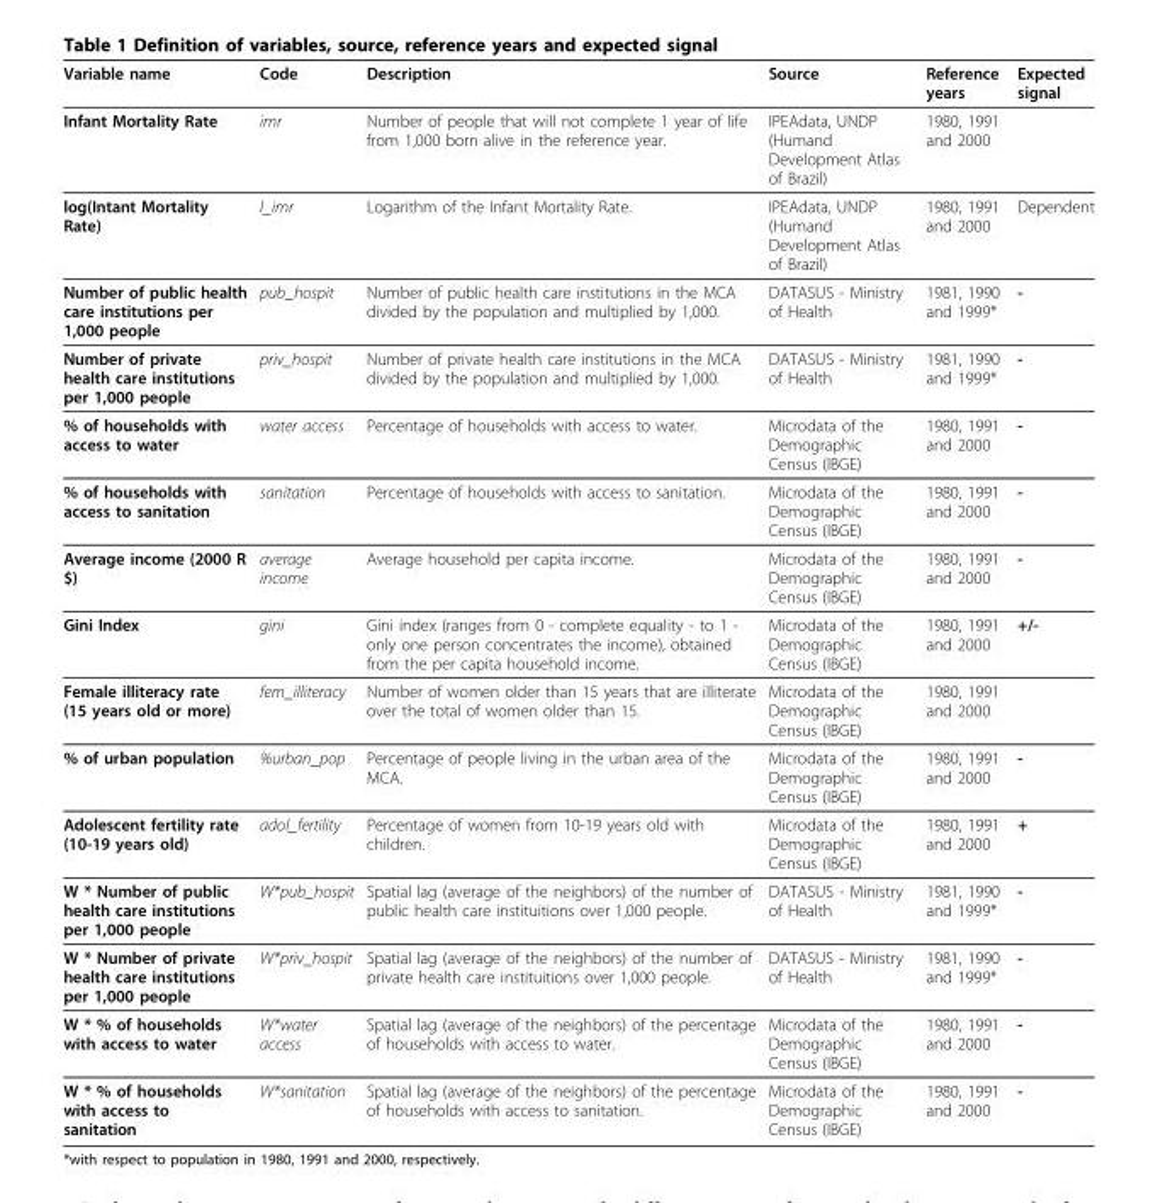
<table><thead><tr><td>Variable name</td><td>Code</td><td>Description</td><td>Source</td><td>Reference years</td><td>Expected signal</td></tr></thead><tbody><tr><td>Infant Mortality Rate</td><td>imr</td><td>Number of people that will not complete 1 year of life from 1,000 born alive in the reference year.</td><td>IPEAdata, UNDP (Humand Development Atlas of Brazil)</td><td>1980, 1991 and 2000</td><td></td></tr><tr><td>log(Intant Mortality Rate)</td><td>l_imr</td><td>Logarithm of the Infant Mortality Rate.</td><td>IPEAdata, UNDP (Humand Development Atlas of Brazil)</td><td>1980, 1991 and 2000</td><td>Dependent</td></tr><tr><td>Number of public health care institutions per 1,000 people</td><td>pub_hospit</td><td>Number of public health care institutions in the MCA divided by the population and multiplied by 1,000.</td><td>DATASUS - Ministry of Health</td><td>1981, 1990 and 1999*</td><td>-</td></tr><tr><td>Number of private health care institutions per 1,000 people</td><td>priv_hospit</td><td>Number of private health care institutions in the MCA divided by the population and multiplied by 1,000.</td><td>DATASUS - Ministry of Health</td><td>1981, 1990 and 1999*</td><td>-</td></tr><tr><td>% of households with access to water</td><td>water access</td><td>Percentage of households with access to water.</td><td>Microdata of the Demographic Census (IBGE)</td><td>1980, 1991 and 2000</td><td>-</td></tr><tr><td>% of households with access to sanitation</td><td>sanitation</td><td>Percentage of households with access to sanitation.</td><td>Microdata of the Demographic Census (IBGE)</td><td>1980, 1991 and 2000</td><td>-</td></tr><tr><td>Average income (2000 R $)</td><td>average income</td><td>Average household per capita income.</td><td>Microdata of the Demographic Census (IBGE)</td><td>1980, 1991 and 2000</td><td>-</td></tr><tr><td>Gini Index</td><td>gini</td><td>Gini index (ranges from 0 - complete equality - to 1 - only one person concentrates the income), obtained from the per capita household income.</td><td>Microdata of the Demographic Census (IBGE)</td><td>1980, 1991 and 2000</td><td>+/-</td></tr><tr><td>Female illiteracy rate (15 years old or more)</td><td>fem_illiteracy</td><td>Number of women older than 15 years that are illiterate over the total of women older than 15.</td><td>Microdata of the Demographic Census (IBGE)</td><td>1980, 1991 and 2000</td><td></td></tr><tr><td>% of urban population</td><td>%urban_pop</td><td>Percentage of people living in the urban area of the MCA.</td><td>Microdata of the Demographic Census (IBGE)</td><td>1980, 1991 and 2000</td><td>-</td></tr><tr><td>Adolescent fertility rate (10-19 years old)</td><td>adol_fertility</td><td>Percentage of women from 10-19 years old with children.</td><td>Microdata of the Demographic Census (IBGE)</td><td>1980, 1991 and 2000</td><td>+</td></tr><tr><td>W * Number of public health care institutions per 1,000 people</td><td>W*pub_hospit</td><td>Spatial lag (average of the neighbors) of the number of public health care instituitions over 1,000 people.</td><td>DATASUS - Ministry of Health</td><td>1981, 1990 and 1999*</td><td>-</td></tr><tr><td>W * Number of private health care institutions per 1,000 people</td><td>W*priv_hospit</td><td>Spatial lag (average of the neighbors) of the number of private health care instituitions over 1,000 people.</td><td>DATASUS - Ministry of Health</td><td>1981, 1990 and 1999*</td><td>-</td></tr><tr><td>W * % of households with access to water</td><td>W*water access</td><td>Spatial lag (average of the neighbors) of the percentage of households with access to water.</td><td>Microdata of the Demographic Census (IBGE)</td><td>1980, 1991 and 2000</td><td>-</td></tr><tr><td>W * % of households with access to sanitation</td><td>W*sanitation</td><td>Spatial lag (average of the neighbors) of the percentage of households with access to sanitation.</td><td>Microdata of the Demographic Census (IBGE)</td><td>1980, 1991 and 2000</td><td>-</td></tr></tbody></table>